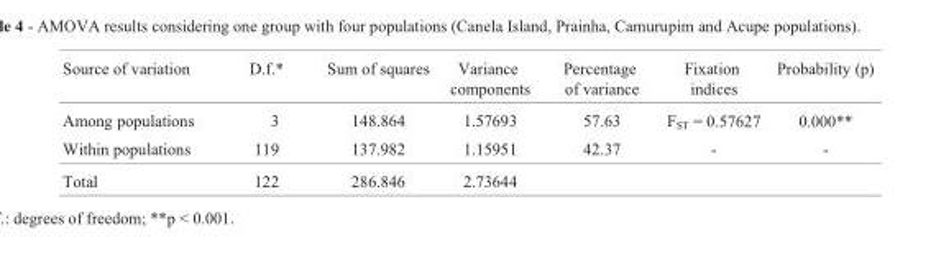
<table><thead><tr><td>Source of variation</td><td>D.f.*</td><td>Sum of squares</td><td>Variance components</td><td>Percentage of variance</td><td>Fixation indices</td><td>Probability (p)</td></tr></thead><tbody><tr><td>Among populations</td><td>3</td><td>148.864</td><td>1.57693</td><td>57.63</td><td>F<sub>ST</sub> = 0.57627</td><td>0.000**</td></tr><tr><td>Within populations</td><td>119</td><td>137.982</td><td>1.15951</td><td>42.37</td><td>-</td><td>-</td></tr><tr><td>Total</td><td>122</td><td>286.846</td><td>2.73644</td><td></td><td></td><td></td></tr></tbody></table>